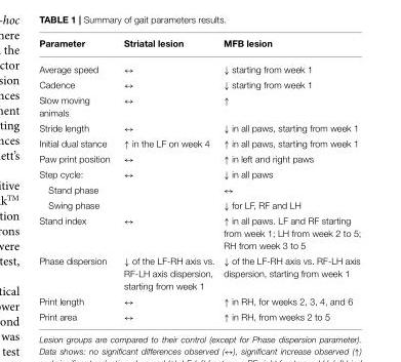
<table><thead><tr><td>Parameter</td><td>Striatal lesion</td><td>MFB lesion</td></tr></thead><tbody><tr><td>Average speed</td><td>↔</td><td>↓ starting from week 1</td></tr><tr><td>Cadence</td><td>↔</td><td>↓ starting from week 1</td></tr><tr><td>Slow moving animals</td><td>↔</td><td>↑</td></tr><tr><td>Stride length</td><td>↔</td><td>↓ in all paws, starting from week 1</td></tr><tr><td>Initial dual stance</td><td>↑ in the LF on week 4</td><td>↑ in all paws, starting from week 1</td></tr><tr><td>Paw print position</td><td>↔</td><td>↑ in left and right paws</td></tr><tr><td>Step cycle:</td><td>↔</td><td>↓ in all paws</td></tr><tr><td>Stand phase</td><td></td><td>↔</td></tr><tr><td>Swing phase</td><td></td><td>↓ for LF, RF and LH</td></tr><tr><td>Stand index</td><td>↔</td><td>↑ in all paws. LF and RF starting from week 1; LH from week 2 to 5; RH from week 3 to 5</td></tr><tr><td>Phase dispersion</td><td>↓ of the LF-RH axis vs. RF-LH axis dispersion, starting from week 1</td><td>↓ of the LF-RH axis vs. RF-LH axis dispersion, starting from week 1</td></tr><tr><td>Print length</td><td>↔</td><td>↑ in RH, for weeks 2, 3, 4, and 6</td></tr><tr><td>Print area</td><td>↔</td><td>↑ in RH, from weeks 2 to 5</td></tr></tbody></table>